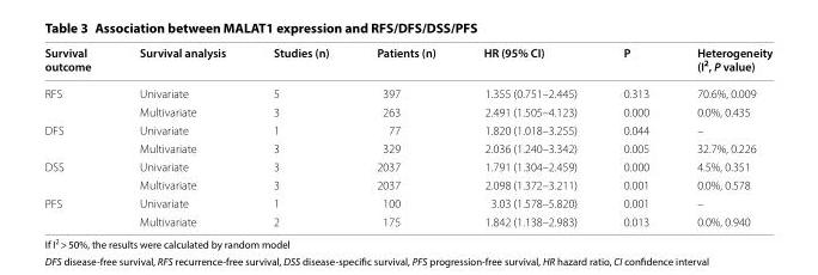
<table><thead><tr><td>Survival outcome</td><td>Survival analysis</td><td>Studies (n)</td><td>Patients (n)</td><td>HR (95% CI)</td><td>P</td><td>Heterogeneity (I<sup>2</sup>, P value)</td></tr></thead><tbody><tr><td rowspan="2">RFS</td><td>Univariate</td><td>5</td><td>397</td><td>1.355 (0.751–2.445)</td><td>0.313</td><td>70.6%, 0.009</td></tr><tr><td>Multivariate</td><td>3</td><td>263</td><td>2.491 (1.505–4.123)</td><td>0.000</td><td>0.0%, 0.435</td></tr><tr><td rowspan="2">DFS</td><td>Univariate</td><td>1</td><td>77</td><td>1.820 (1.018–3.255)</td><td>0.044</td><td>–</td></tr><tr><td>Multivariate</td><td>3</td><td>329</td><td>2.036 (1.240–3.342)</td><td>0.005</td><td>32.7%, 0.226</td></tr><tr><td rowspan="2">DSS</td><td>Univariate</td><td>3</td><td>2037</td><td>1.791 (1.304–2.459)</td><td>0.000</td><td>4.5%, 0.351</td></tr><tr><td>Multivariate</td><td>3</td><td>2037</td><td>2.098 (1.372–3.211)</td><td>0.001</td><td>0.0%, 0.578</td></tr><tr><td rowspan="2">PFS</td><td>Univariate</td><td>1</td><td>100</td><td>3.03 (1.578–5.820)</td><td>0.001</td><td>–</td></tr><tr><td>Multivariate</td><td>2</td><td>175</td><td>1.842 (1.138–2.983)</td><td>0.013</td><td>0.0%, 0.940</td></tr></tbody></table>